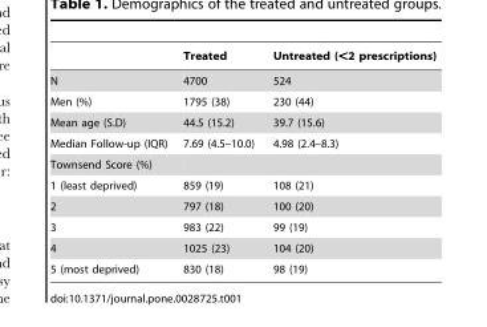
<table><thead><tr><td></td><td>Treated</td><td>Untreated (&lt;2 prescriptions)</td></tr></thead><tbody><tr><td>N</td><td>4700</td><td>524</td></tr><tr><td>Men (%)</td><td>1795 (38)</td><td>230 (44)</td></tr><tr><td>Mean age (S.D)</td><td>44.5 (15.2)</td><td>39.7 (15.6)</td></tr><tr><td>Median Follow-up (IQR)</td><td>7.69 (4.5–10.0)</td><td>4.98 (2.4–8.3)</td></tr><tr><td colspan="3">Townsend Score (%)</td></tr><tr><td>1 (least deprived)</td><td>859 (19)</td><td>108 (21)</td></tr><tr><td>2</td><td>797 (18)</td><td>100 (20)</td></tr><tr><td>3</td><td>983 (22)</td><td>99 (19)</td></tr><tr><td>4</td><td>1025 (23)</td><td>104 (20)</td></tr><tr><td>5 (most deprived)</td><td>830 (18)</td><td>98 (19)</td></tr></tbody></table>